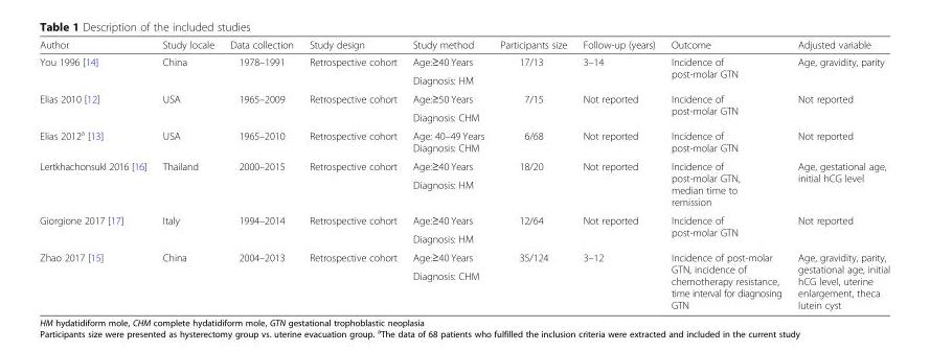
<table><thead><tr><td>Author</td><td>Study locale</td><td>Data collection</td><td>Study design</td><td>Study method</td><td>Participants size</td><td>Follow-up (years)</td><td>Outcome</td><td>Adjusted variable</td></tr></thead><tbody><tr><td rowspan="2">You 1996 [14]</td><td rowspan="2">China</td><td rowspan="2">1978–1991</td><td rowspan="2">Retrospective cohort</td><td>Age:≥40 Years</td><td rowspan="2">17/13</td><td rowspan="2">3–14</td><td rowspan="2">Incidence of post-molar GTN</td><td rowspan="2">Age, gravidity, parity</td></tr><tr><td>Diagnosis: HM</td></tr><tr><td rowspan="2">Elias 2010 [12]</td><td rowspan="2">USA</td><td rowspan="2">1965–2009</td><td rowspan="2">Retrospective cohort</td><td>Age:≥50 Years</td><td rowspan="2">7/15</td><td rowspan="2">Not reported</td><td rowspan="2">Incidence of post-molar GTN</td><td rowspan="2">Not reported</td></tr><tr><td>Diagnosis: CHM</td></tr><tr><td>Elias 2012<sup>a</sup> [13]</td><td>USA</td><td>1965–2010</td><td>Retrospective cohort</td><td>Age: 40–49 Years Diagnosis: CHM</td><td>6/68</td><td>Not reported</td><td>Incidence of post-molar GTN</td><td>Not reported</td></tr><tr><td rowspan="2">Lertkhachonsukl 2016 [16]</td><td rowspan="2">Thailand</td><td rowspan="2">2000–2015</td><td rowspan="2">Retrospective cohort</td><td>Age:≥40 Years</td><td rowspan="2">18/20</td><td rowspan="2">Not reported</td><td rowspan="2">Incidence of post-molar GTN, median time to remission</td><td rowspan="2">Age, gestational age, initial hCG level</td></tr><tr><td>Diagnosis: HM</td></tr><tr><td rowspan="2">Giorgione 2017 [17]</td><td rowspan="2">Italy</td><td rowspan="2">1994–2014</td><td rowspan="2">Retrospective cohort</td><td>Age:≥40 Years</td><td rowspan="2">12/64</td><td rowspan="2">Not reported</td><td rowspan="2">Incidence of post-molar GTN</td><td rowspan="2">Not reported</td></tr><tr><td>Diagnosis: HM</td></tr><tr><td rowspan="2">Zhao 2017 [15]</td><td rowspan="2">China</td><td rowspan="2">2004–2013</td><td rowspan="2">Retrospective cohort</td><td>Age:≥40 Years</td><td rowspan="2">35/124</td><td rowspan="2">3–12</td><td rowspan="2">Incidence of post-molar GTN, incidence of chemotherapy resistance, time interval for diagnosing GTN</td><td rowspan="2">Age, gravidity, parity, gestational age, initial hCG level, uterine enlargement, theca lutein cyst</td></tr><tr><td>Diagnosis: CHM</td></tr></tbody></table>